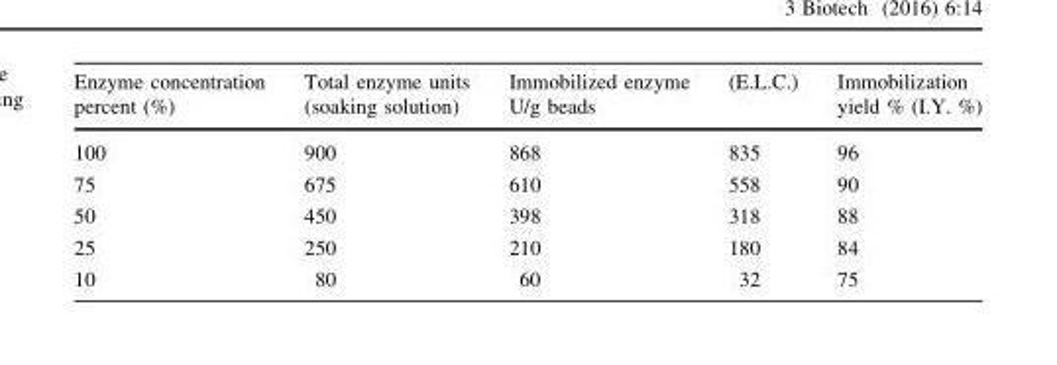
<table><thead><tr><td>Enzyme concentration percent (%)</td><td>Total enzyme units (soaking solution)</td><td>Immobilized enzyme U/g beads</td><td>(E.L.C.)</td><td>Immobilization yield % (I.Y. %)</td></tr></thead><tbody><tr><td>100</td><td>900</td><td>868</td><td>835</td><td>96</td></tr><tr><td>75</td><td>675</td><td>610</td><td>558</td><td>90</td></tr><tr><td>50</td><td>450</td><td>398</td><td>318</td><td>88</td></tr><tr><td>25</td><td>250</td><td>210</td><td>180</td><td>84</td></tr><tr><td>10</td><td>80</td><td>60</td><td>32</td><td>75</td></tr></tbody></table>